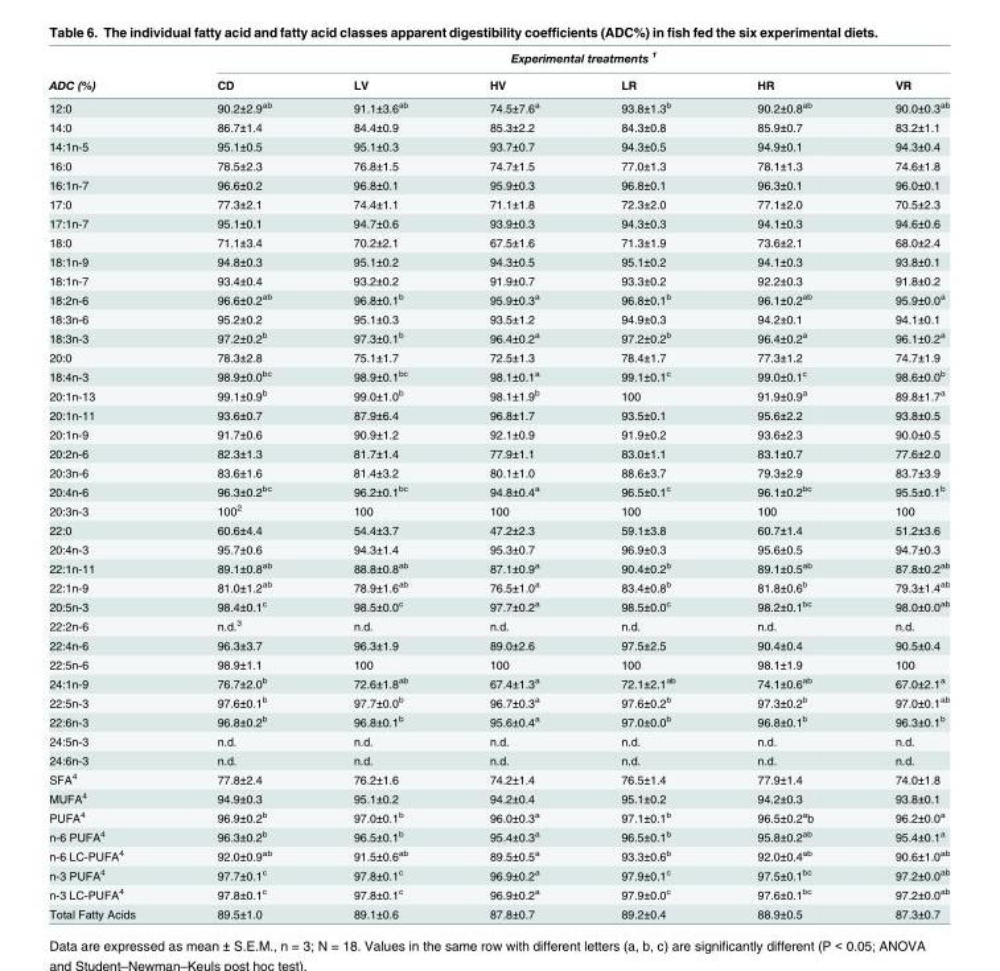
<table><thead><tr><td rowspan="2">ADC (%)</td><td colspan="6">Experimental treatments <sup>1</sup></td></tr><tr><td>CD</td><td>LV</td><td>HV</td><td>LR</td><td>HR</td><td>VR</td></tr></thead><tbody><tr><td>12:0</td><td>90.2±2.9<sup>ab</sup></td><td>91.1±3.6<sup>ab</sup></td><td>74.5±7.6<sup>a</sup></td><td>93.8±1.3<sup>b</sup></td><td>90.2±0.8<sup>ab</sup></td><td>90.0±0.3<sup>ab</sup></td></tr><tr><td>14:0</td><td>86.7±1.4</td><td>84.4±0.9</td><td>85.3±2.2</td><td>84.3±0.8</td><td>85.9±0.7</td><td>83.2±1.1</td></tr><tr><td>14:1n-5</td><td>95.1±0.5</td><td>95.1±0.3</td><td>93.7±0.7</td><td>94.3±0.5</td><td>94.9±0.1</td><td>94.3±0.4</td></tr><tr><td>16:0</td><td>78.5±2.3</td><td>76.8±1.5</td><td>74.7±1.5</td><td>77.0±1.3</td><td>78.1±1.3</td><td>74.6±1.8</td></tr><tr><td>16:1n-7</td><td>96.6±0.2</td><td>96.8±0.1</td><td>95.9±0.3</td><td>96.8±0.1</td><td>96.3±0.1</td><td>96.0±0.1</td></tr><tr><td>17:0</td><td>77.3±2.1</td><td>74.4±1.1</td><td>71.1±1.8</td><td>72.3±2.0</td><td>77.1±2.0</td><td>70.5±2.3</td></tr><tr><td>17:1n-7</td><td>95.1±0.1</td><td>94.7±0.6</td><td>93.9±0.3</td><td>94.3±0.3</td><td>94.1±0.3</td><td>94.6±0.6</td></tr><tr><td>18:0</td><td>71.1±3.4</td><td>70.2±2.1</td><td>67.5±1.6</td><td>71.3±1.9</td><td>73.6±2.1</td><td>68.0±2.4</td></tr><tr><td>18:1n-9</td><td>94.8±0.3</td><td>95.1±0.2</td><td>94.3±0.5</td><td>95.1±0.2</td><td>94.1±0.3</td><td>93.8±0.1</td></tr><tr><td>18:1n-7</td><td>93.4±0.4</td><td>93.2±0.2</td><td>91.9±0.7</td><td>93.3±0.2</td><td>92.2±0.3</td><td>91.8±0.2</td></tr><tr><td>18:2n-6</td><td>96.6±0.2<sup>ab</sup></td><td>96.8±0.1<sup>b</sup></td><td>95.9±0.3<sup>a</sup></td><td>96.8±0.1<sup>b</sup></td><td>96.1±0.2<sup>ab</sup></td><td>95.9±0.0<sup>a</sup></td></tr><tr><td>18:3n-6</td><td>95.2±0.2</td><td>95.1±0.3</td><td>93.5±1.2</td><td>94.9±0.3</td><td>94.2±0.1</td><td>94.1±0.1</td></tr><tr><td>18:3n-3</td><td>97.2±0.2<sup>b</sup></td><td>97.3±0.1<sup>b</sup></td><td>96.4±0.2<sup>a</sup></td><td>97.2±0.2<sup>b</sup></td><td>96.4±0.2<sup>a</sup></td><td>96.1±0.2<sup>a</sup></td></tr><tr><td>20:0</td><td>78.3±2.8</td><td>75.1±1.7</td><td>72.5±1.3</td><td>78.4±1.7</td><td>77.3±1.2</td><td>74.7±1.9</td></tr><tr><td>18:4n-3</td><td>98.9±0.0<sup>bc</sup></td><td>98.9±0.1<sup>bc</sup></td><td>98.1±0.1<sup>a</sup></td><td>99.1±0.1<sup>c</sup></td><td>99.0±0.1<sup>c</sup></td><td>98.6±0.0<sup>b</sup></td></tr><tr><td>20:1n-13</td><td>99.1±0.9<sup>b</sup></td><td>99.0±1.0<sup>b</sup></td><td>98.1±1.9<sup>b</sup></td><td>100</td><td>91.9±0.9<sup>a</sup></td><td>89.8±1.7<sup>a</sup></td></tr><tr><td>20:1n-11</td><td>93.6±0.7</td><td>87.9±6.4</td><td>96.8±1.7</td><td>93.5±0.1</td><td>95.6±2.2</td><td>93.8±0.5</td></tr><tr><td>20:1n-9</td><td>91.7±0.6</td><td>90.9±1.2</td><td>92.1±0.9</td><td>91.9±0.2</td><td>93.6±2.3</td><td>90.0±0.5</td></tr><tr><td>20:2n-6</td><td>82.3±1.3</td><td>81.7±1.4</td><td>77.9±1.1</td><td>83.0±1.1</td><td>83.1±0.7</td><td>77.6±2.0</td></tr><tr><td>20:3n-6</td><td>83.6±1.6</td><td>81.4±3.2</td><td>80.1±1.0</td><td>88.6±3.7</td><td>79.3±2.9</td><td>83.7±3.9</td></tr><tr><td>20:4n-6</td><td>96.3±0.2<sup>bc</sup></td><td>96.2±0.1<sup>bc</sup></td><td>94.8±0.4<sup>a</sup></td><td>96.5±0.1<sup>c</sup></td><td>96.1±0.2<sup>bc</sup></td><td>95.5±0.1<sup>b</sup></td></tr><tr><td>20:3n-3</td><td>100<sup>2</sup></td><td>100</td><td>100</td><td>100</td><td>100</td><td>100</td></tr><tr><td>22:0</td><td>60.6±4.4</td><td>54.4±3.7</td><td>47.2±2.3</td><td>59.1±3.8</td><td>60.7±1.4</td><td>51.2±3.6</td></tr><tr><td>20:4n-3</td><td>95.7±0.6</td><td>94.3±1.4</td><td>95.3±0.7</td><td>96.9±0.3</td><td>95.6±0.5</td><td>94.7±0.3</td></tr><tr><td>22:1n-11</td><td>89.1±0.8<sup>ab</sup></td><td>88.8±0.8<sup>ab</sup></td><td>87.1±0.9<sup>a</sup></td><td>90.4±0.2<sup>b</sup></td><td>89.1±0.5<sup>ab</sup></td><td>87.8±0.2<sup>ab</sup></td></tr><tr><td>22:1n-9</td><td>81.0±1.2<sup>ab</sup></td><td>78.9±1.6<sup>ab</sup></td><td>76.5±1.0<sup>a</sup></td><td>83.4±0.8<sup>b</sup></td><td>81.8±0.6<sup>b</sup></td><td>79.3±1.4<sup>ab</sup></td></tr><tr><td>20:5n-3</td><td>98.4±0.1<sup>c</sup></td><td>98.5±0.0<sup>c</sup></td><td>97.7±0.2<sup>a</sup></td><td>98.5±0.0<sup>c</sup></td><td>98.2±0.1<sup>bc</sup></td><td>98.0±0.0<sup>ab</sup></td></tr><tr><td>22:2n-6</td><td>n.d.<sup>3</sup></td><td>n.d.</td><td>n.d.</td><td>n.d.</td><td>n.d.</td><td>n.d.</td></tr><tr><td>22:4n-6</td><td>96.3±3.7</td><td>96.3±1.9</td><td>89.0±2.6</td><td>97.5±2.5</td><td>90.4±0.4</td><td>90.5±0.4</td></tr><tr><td>22:5n-6</td><td>98.9±1.1</td><td>100</td><td>100</td><td>100</td><td>98.1±1.9</td><td>100</td></tr><tr><td>24:1n-9</td><td>76.7±2.0<sup>b</sup></td><td>72.6±1.8<sup>ab</sup></td><td>67.4±1.3<sup>a</sup></td><td>72.1±2.1<sup>ab</sup></td><td>74.1±0.6<sup>ab</sup></td><td>67.0±2.1<sup>a</sup></td></tr><tr><td>22:5n-3</td><td>97.6±0.1<sup>b</sup></td><td>97.7±0.0<sup>b</sup></td><td>96.7±0.3<sup>a</sup></td><td>97.6±0.2<sup>b</sup></td><td>97.3±0.2<sup>b</sup></td><td>97.0±0.1<sup>ab</sup></td></tr><tr><td>22:6n-3</td><td>96.8±0.2<sup>b</sup></td><td>96.8±0.1<sup>b</sup></td><td>95.6±0.4<sup>a</sup></td><td>97.0±0.0<sup>b</sup></td><td>96.8±0.1<sup>b</sup></td><td>96.3±0.1<sup>b</sup></td></tr><tr><td>24:5n-3</td><td>n.d.</td><td>n.d.</td><td>n.d.</td><td>n.d.</td><td>n.d.</td><td>n.d.</td></tr><tr><td>24:6n-3</td><td>n.d.</td><td>n.d.</td><td>n.d.</td><td>n.d.</td><td>n.d.</td><td>n.d.</td></tr><tr><td>SFA<sup>4</sup></td><td>77.8±2.4</td><td>76.2±1.6</td><td>74.2±1.4</td><td>76.5±1.4</td><td>77.9±1.4</td><td>74.0±1.8</td></tr><tr><td>MUFA<sup>4</sup></td><td>94.9±0.3</td><td>95.1±0.2</td><td>94.2±0.4</td><td>95.1±0.2</td><td>94.2±0.3</td><td>93.8±0.1</td></tr><tr><td>PUFA<sup>4</sup></td><td>96.9±0.2<sup>b</sup></td><td>97.0±0.1<sup>b</sup></td><td>96.0±0.3<sup>a</sup></td><td>97.1±0.1<sup>b</sup></td><td>96.5±0.2<sup>a</sup>b</td><td>96.2±0.0<sup>a</sup></td></tr><tr><td>n-6 PUFA<sup>4</sup></td><td>96.3±0.2<sup>b</sup></td><td>96.5±0.1<sup>b</sup></td><td>95.4±0.3<sup>a</sup></td><td>96.5±0.1<sup>b</sup></td><td>95.8±0.2<sup>ab</sup></td><td>95.4±0.1<sup>a</sup></td></tr><tr><td>n-6 LC-PUFA<sup>4</sup></td><td>92.0±0.9<sup>ab</sup></td><td>91.5±0.6<sup>ab</sup></td><td>89.5±0.5<sup>a</sup></td><td>93.3±0.6<sup>b</sup></td><td>92.0±0.4<sup>ab</sup></td><td>90.6±1.0<sup>ab</sup></td></tr><tr><td>n-3 PUFA<sup>4</sup></td><td>97.7±0.1<sup>c</sup></td><td>97.8±0.1<sup>c</sup></td><td>96.9±0.2<sup>a</sup></td><td>97.9±0.1<sup>c</sup></td><td>97.5±0.1<sup>bc</sup></td><td>97.2±0.0<sup>ab</sup></td></tr><tr><td>n-3 LC-PUFA<sup>4</sup></td><td>97.8±0.1<sup>c</sup></td><td>97.8±0.1<sup>c</sup></td><td>96.9±0.2<sup>a</sup></td><td>97.9±0.0<sup>c</sup></td><td>97.6±0.1<sup>bc</sup></td><td>97.2±0.0<sup>ab</sup></td></tr><tr><td>Total Fatty Acids</td><td>89.5±1.0</td><td>89.1±0.6</td><td>87.8±0.7</td><td>89.2±0.4</td><td>88.9±0.5</td><td>87.3±0.7</td></tr></tbody></table>